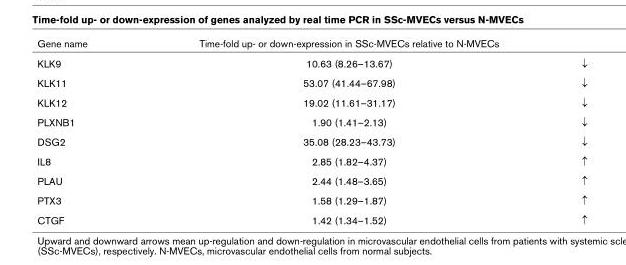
<table><thead><tr><td>Gene name</td><td>Time-fold up- or down-expression in SSc-MVECs relative to N-MVECs</td><td></td></tr></thead><tbody><tr><td>KLK9</td><td>10.63 (8.26–13.67)</td><td>↓</td></tr><tr><td>KLK11</td><td>53.07 (41.44–67.98)</td><td>↓</td></tr><tr><td>KLK12</td><td>19.02 (11.61–31.17)</td><td>↓</td></tr><tr><td>PLXNB1</td><td>1.90 (1.41–2.13)</td><td>↓</td></tr><tr><td>DSG2</td><td>35.08 (28.23–43.73)</td><td>↓</td></tr><tr><td>IL8</td><td>2.85 (1.82–4.37)</td><td>↑</td></tr><tr><td>PLAU</td><td>2.44 (1.48–3.65)</td><td>↑</td></tr><tr><td>PTX3</td><td>1.58 (1.29–1.87)</td><td>↑</td></tr><tr><td>CTGF</td><td>1.42 (1.34–1.52)</td><td>↑</td></tr></tbody></table>